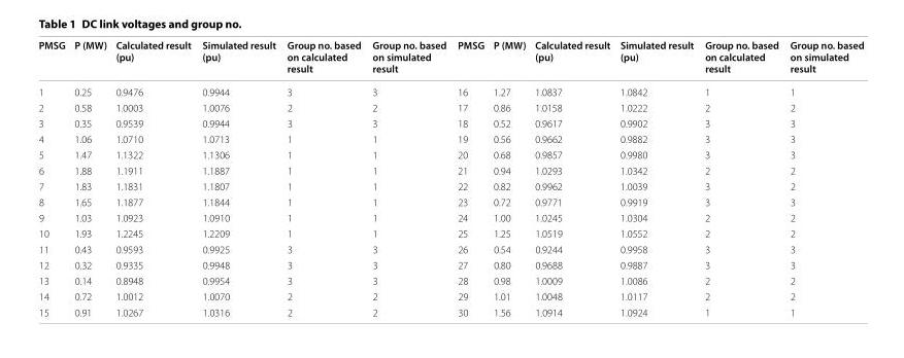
<table><thead><tr><td>PMSG</td><td>P (MW)</td><td>Calculated result (pu)</td><td>Simulated result (pu)</td><td>Group no. based on calculated result</td><td>Group no. based on simulated result</td><td>PMSG</td><td>P (MW)</td><td>Calculated result (pu)</td><td>Simulated result (pu)</td><td>Group no. based on calculated result</td><td>Group no. based on simulated result</td></tr></thead><tbody><tr><td>1</td><td>0.25</td><td>0.9476</td><td>0.9944</td><td>3</td><td>3</td><td>16</td><td>1.27</td><td>1.0837</td><td>1.0842</td><td>1</td><td>1</td></tr><tr><td>2</td><td>0.58</td><td>1.0003</td><td>1.0076</td><td>2</td><td>2</td><td>17</td><td>0.86</td><td>1.0158</td><td>1.0222</td><td>2</td><td>2</td></tr><tr><td>3</td><td>0.35</td><td>0.9539</td><td>0.9944</td><td>3</td><td>3</td><td>18</td><td>0.52</td><td>0.9617</td><td>0.9902</td><td>3</td><td>3</td></tr><tr><td>4</td><td>1.06</td><td>1.0710</td><td>1.0713</td><td>1</td><td>1</td><td>19</td><td>0.56</td><td>0.9662</td><td>0.9882</td><td>3</td><td>3</td></tr><tr><td>5</td><td>1.47</td><td>1.1322</td><td>1.1306</td><td>1</td><td>1</td><td>20</td><td>0.68</td><td>0.9857</td><td>0.9980</td><td>3</td><td>3</td></tr><tr><td>6</td><td>1.88</td><td>1.1911</td><td>1.1887</td><td>1</td><td>1</td><td>21</td><td>0.94</td><td>1.0293</td><td>1.0342</td><td>2</td><td>2</td></tr><tr><td>7</td><td>1.83</td><td>1.1831</td><td>1.1807</td><td>1</td><td>1</td><td>22</td><td>0.82</td><td>0.9962</td><td>1.0039</td><td>3</td><td>2</td></tr><tr><td>8</td><td>1.65</td><td>1.1877</td><td>1.1844</td><td>1</td><td>1</td><td>23</td><td>0.72</td><td>0.9771</td><td>0.9919</td><td>3</td><td>3</td></tr><tr><td>9</td><td>1.03</td><td>1.0923</td><td>1.0910</td><td>1</td><td>1</td><td>24</td><td>1.00</td><td>1.0245</td><td>1.0304</td><td>2</td><td>2</td></tr><tr><td>10</td><td>1.93</td><td>1.2245</td><td>1.2209</td><td>1</td><td>1</td><td>25</td><td>1.25</td><td>1.0519</td><td>1.0552</td><td>2</td><td>2</td></tr><tr><td>11</td><td>0.43</td><td>0.9593</td><td>0.9925</td><td>3</td><td>3</td><td>26</td><td>0.54</td><td>0.9244</td><td>0.9958</td><td>3</td><td>3</td></tr><tr><td>12</td><td>0.32</td><td>0.9335</td><td>0.9948</td><td>3</td><td>3</td><td>27</td><td>0.80</td><td>0.9688</td><td>0.9887</td><td>3</td><td>3</td></tr><tr><td>13</td><td>0.14</td><td>0.8948</td><td>0.9954</td><td>3</td><td>3</td><td>28</td><td>0.98</td><td>1.0009</td><td>1.0086</td><td>2</td><td>2</td></tr><tr><td>14</td><td>0.72</td><td>1.0012</td><td>1.0070</td><td>2</td><td>2</td><td>29</td><td>1.01</td><td>1.0048</td><td>1.0117</td><td>2</td><td>2</td></tr><tr><td>15</td><td>0.91</td><td>1.0267</td><td>1.0316</td><td>2</td><td>2</td><td>30</td><td>1.56</td><td>1.0914</td><td>1.0924</td><td>1</td><td>1</td></tr></tbody></table>